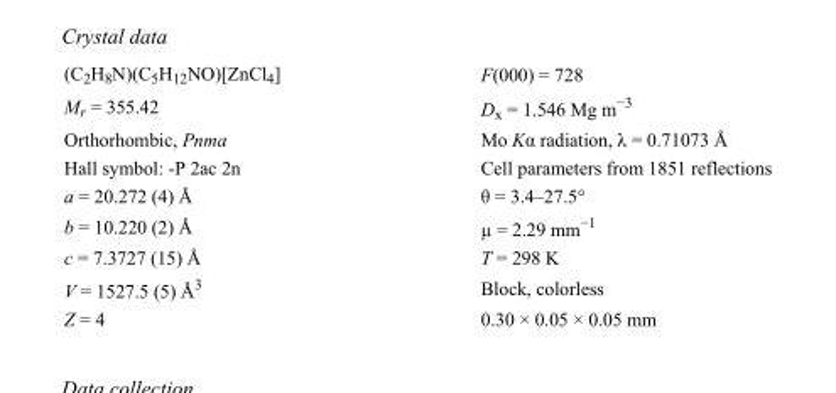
<table><tbody><tr><td>(C<sub>2</sub>H<sub>8</sub>N)(C<sub>5</sub>H<sub>12</sub>NO)[ZnCl<sub>4</sub>]</td><td>F(000) = 728</td></tr><tr><td>M<sub>r</sub> = 355.42</td><td>D<sub>x</sub> = 1.546 Mg m<sup>−3</sup></td></tr><tr><td>Orthorhombic, Pnma</td><td>Mo Kα radiation, λ = 0.71073 Å</td></tr><tr><td>Hall symbol: -P 2ac 2n</td><td>Cell parameters from 1851 reflections</td></tr><tr><td>a = 20.272 (4) Å</td><td>θ = 3.4–27.5°</td></tr><tr><td>b = 10.220 (2) Å</td><td>µ = 2.29 mm<sup>−1</sup></td></tr><tr><td>c = 7.3727 (15) Å</td><td>T = 298 K</td></tr><tr><td>V = 1527.5 (5) Å<sup>3</sup></td><td>Block, colorless</td></tr><tr><td>Z = 4</td><td>0.30 × 0.05 × 0.05 mm</td></tr></tbody></table>